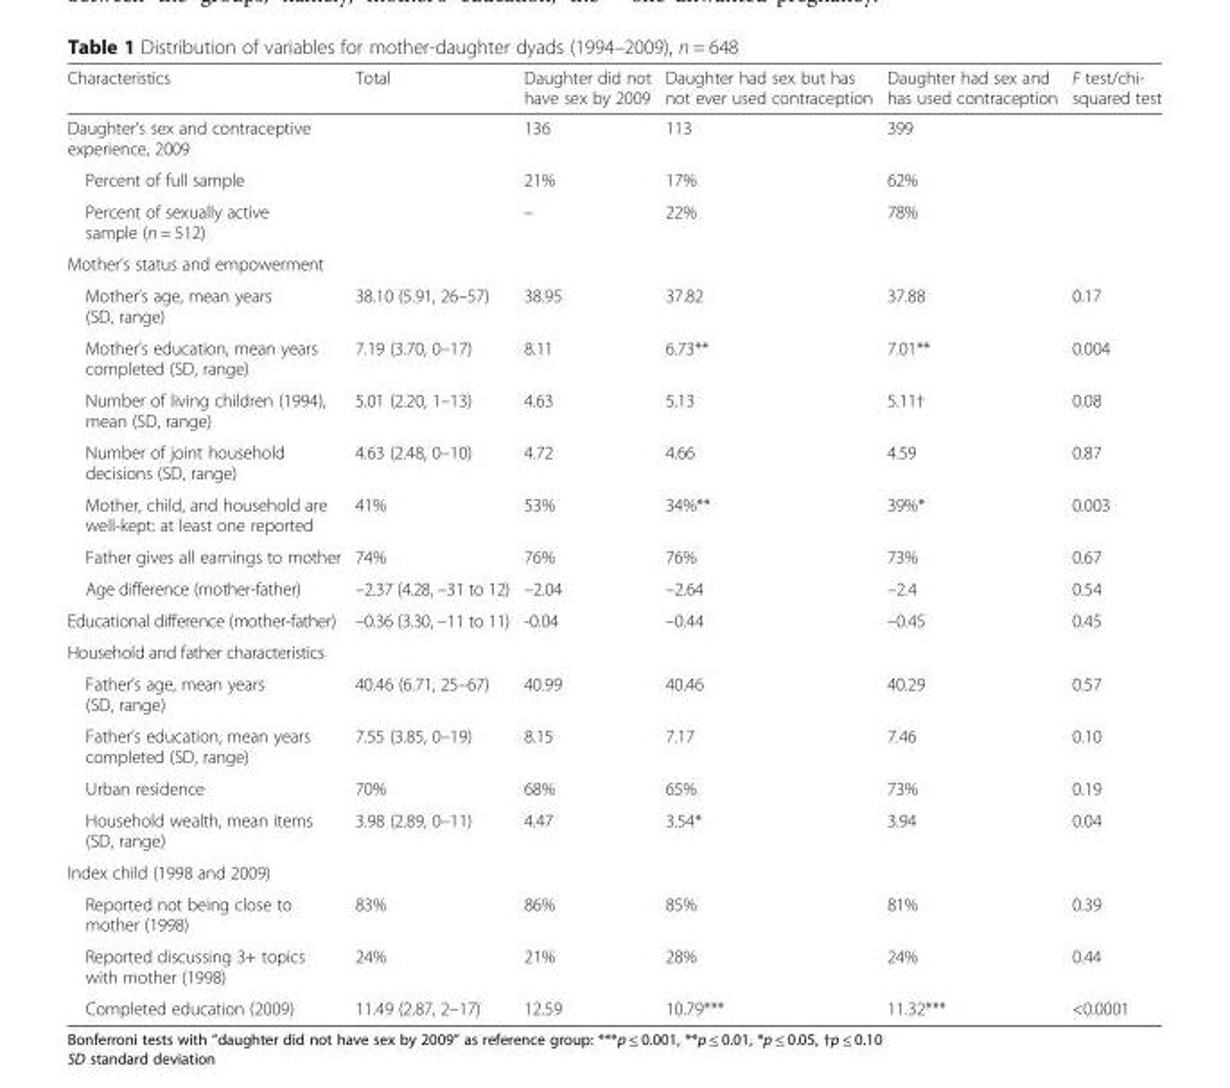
<table><thead><tr><td>Characteristics</td><td>Total</td><td>Daughter did not have sex by 2009</td><td>Daughter had sex but has not ever used contraception</td><td>Daughter had sex and has used contraception</td><td>F test/chi- squared test</td></tr></thead><tbody><tr><td>Daughter’s sex and contraceptive experience, 2009</td><td></td><td>136</td><td>113</td><td>399</td><td></td></tr><tr><td>Percent of full sample</td><td></td><td>21%</td><td>17%</td><td>62%</td><td></td></tr><tr><td>Percent of sexually active sample (n = 512)</td><td></td><td>–</td><td>22%</td><td>78%</td><td></td></tr><tr><td colspan="6">Mother’s status and empowerment</td></tr><tr><td>Mother’s age, mean years (SD, range)</td><td>38.10 (5.91, 26–57)</td><td>38.95</td><td>37.82</td><td>37.88</td><td>0.17</td></tr><tr><td>Mother’s education, mean years completed (SD, range)</td><td>7.19 (3.70, 0–17)</td><td>8.11</td><td>6.73**</td><td>7.01**</td><td>0.004</td></tr><tr><td>Number of living children (1994), mean (SD, range)</td><td>5.01 (2.20, 1–13)</td><td>4.63</td><td>5.13</td><td>5.11†</td><td>0.08</td></tr><tr><td>Number of joint household decisions (SD, range)</td><td>4.63 (2.48, 0–10)</td><td>4.72</td><td>4.66</td><td>4.59</td><td>0.87</td></tr><tr><td>Mother, child, and household are well-kept: at least one reported</td><td>41%</td><td>53%</td><td>34%**</td><td>39%*</td><td>0.003</td></tr><tr><td>Father gives all earnings to mother</td><td>74%</td><td>76%</td><td>76%</td><td>73%</td><td>0.67</td></tr><tr><td>Age difference (mother-father)</td><td>–2.37 (4.28, –31 to 12)</td><td>–2.04</td><td>–2.64</td><td>–2.4</td><td>0.54</td></tr><tr><td>Educational difference (mother-father)</td><td>–0.36 (3.30, –11 to 11)</td><td>-0.04</td><td>–0.44</td><td>–0.45</td><td>0.45</td></tr><tr><td colspan="6">Household and father characteristics</td></tr><tr><td>Father’s age, mean years (SD, range)</td><td>40.46 (6.71, 25–67)</td><td>40.99</td><td>40.46</td><td>40.29</td><td>0.57</td></tr><tr><td>Father’s education, mean years completed (SD, range)</td><td>7.55 (3.85, 0–19)</td><td>8.15</td><td>7.17</td><td>7.46</td><td>0.10</td></tr><tr><td>Urban residence</td><td>70%</td><td>68%</td><td>65%</td><td>73%</td><td>0.19</td></tr><tr><td>Household wealth, mean items (SD, range)</td><td>3.98 (2.89, 0–11)</td><td>4.47</td><td>3.54*</td><td>3.94</td><td>0.04</td></tr><tr><td colspan="6">Index child (1998 and 2009)</td></tr><tr><td>Reported not being close to mother (1998)</td><td>83%</td><td>86%</td><td>85%</td><td>81%</td><td>0.39</td></tr><tr><td>Reported discussing 3+ topics with mother (1998)</td><td>24%</td><td>21%</td><td>28%</td><td>24%</td><td>0.44</td></tr><tr><td>Completed education (2009)</td><td>11.49 (2.87, 2–17)</td><td>12.59</td><td>10.79***</td><td>11.32***</td><td>&lt;0.0001</td></tr></tbody></table>